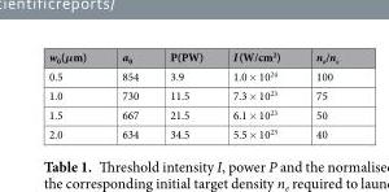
<table><thead><tr><td>w<sub>0</sub>(μm)</td><td>a<sub>0</sub></td><td>P(PW)</td><td>I (W/cm<sup>2</sup>)</td><td>n<sub>e</sub>/n<sub>c</sub></td></tr></thead><tbody><tr><td>0.5</td><td>854</td><td>3.9</td><td>1.0 × 10<sup>24</sup></td><td>100</td></tr><tr><td>1.0</td><td>730</td><td>11.5</td><td>7.3 × 10<sup>23</sup></td><td>75</td></tr><tr><td>1.5</td><td>667</td><td>21.5</td><td>6.1 × 10<sup>23</sup></td><td>50</td></tr><tr><td>2.0</td><td>634</td><td>34.5</td><td>5.5 × 10<sup>23</sup></td><td>40</td></tr></tbody></table>